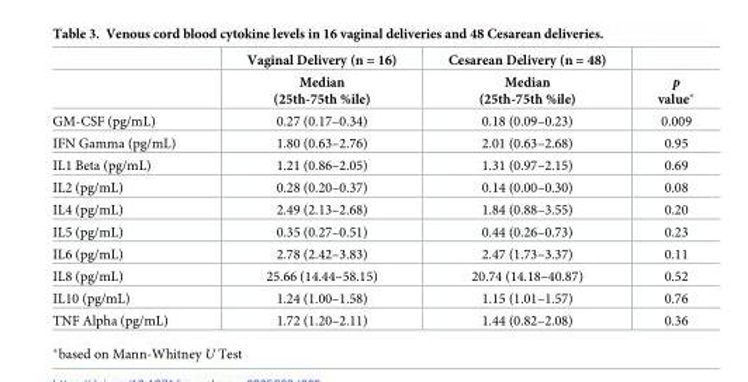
<table><thead><tr><td rowspan="2"></td><td rowspan="2">Vaginal Delivery (n = 16) Median (25th-75th %ile)</td><td rowspan="2">Cesarean Delivery (n = 48) Median (25th-75th %ile)</td><td rowspan="2">p value*</td></tr><tr></tr></thead><tbody><tr><td>GM-CSF (pg/mL)</td><td>0.27 (0.17–0.34)</td><td>0.18 (0.09–0.23)</td><td>0.009</td></tr><tr><td>IFN Gamma (pg/mL)</td><td>1.80 (0.63–2.76)</td><td>2.01 (0.63–2.68)</td><td>0.95</td></tr><tr><td>IL1 Beta (pg/mL)</td><td>1.21 (0.86–2.05)</td><td>1.31 (0.97–2.15)</td><td>0.69</td></tr><tr><td>IL2 (pg/mL)</td><td>0.28 (0.20–0.37)</td><td>0.14 (0.00–0.30)</td><td>0.08</td></tr><tr><td>IL4 (pg/mL)</td><td>2.49 (2.13–2.68)</td><td>1.84 (0.88–3.55)</td><td>0.20</td></tr><tr><td>IL5 (pg/mL)</td><td>0.35 (0.27–0.51)</td><td>0.44 (0.26–0.73)</td><td>0.23</td></tr><tr><td>IL6 (pg/mL)</td><td>2.78 (2.42–3.83)</td><td>2.47 (1.73–3.37)</td><td>0.11</td></tr><tr><td>IL8 (pg/mL)</td><td>25.66 (14.44–58.15)</td><td>20.74 (14.18–40.87)</td><td>0.52</td></tr><tr><td>IL10 (pg/mL)</td><td>1.24 (1.00–1.58)</td><td>1.15 (1.01–1.57)</td><td>0.76</td></tr><tr><td>TNF Alpha (pg/mL)</td><td>1.72 (1.20–2.11)</td><td>1.44 (0.82–2.08)</td><td>0.36</td></tr></tbody></table>